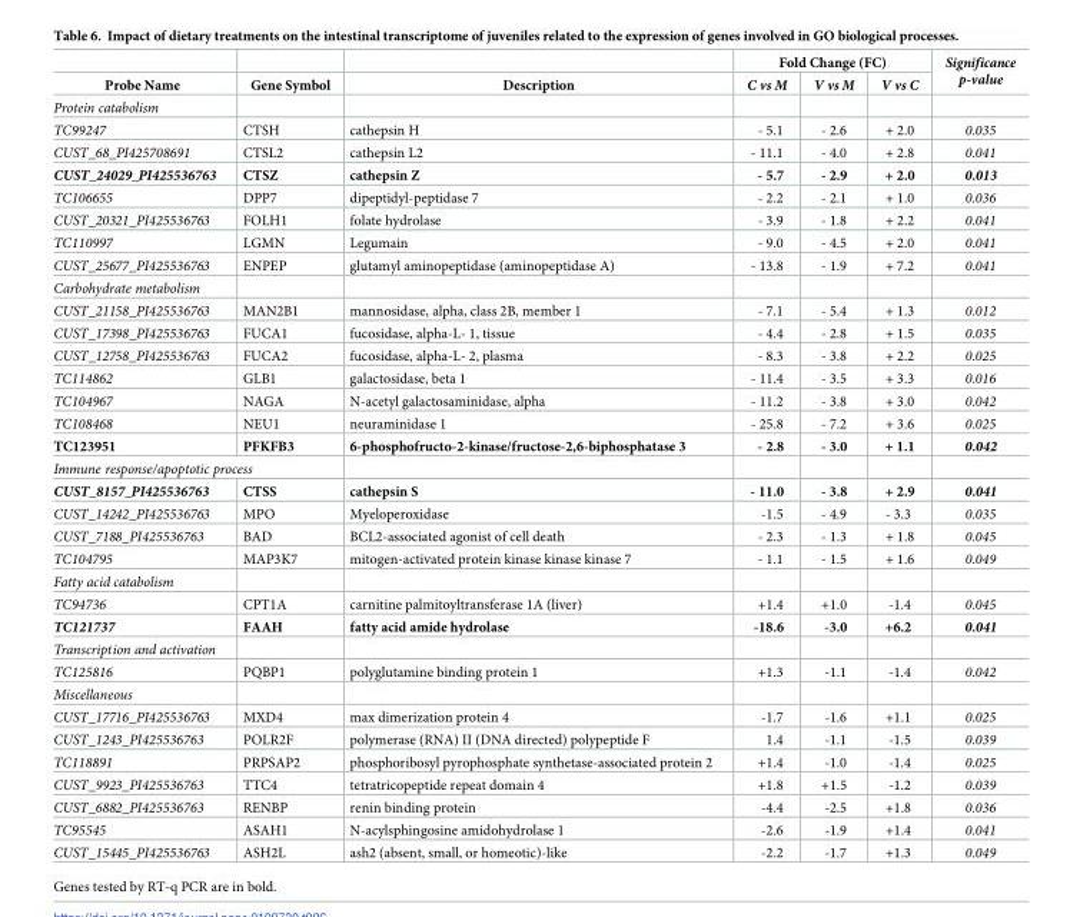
<table><thead><tr><td rowspan="2">Probe Name</td><td rowspan="2">Gene Symbol</td><td rowspan="2">Description</td><td colspan="3">Fold Change (FC)</td><td rowspan="2">Significance p-value</td></tr><tr><td>C vs M</td><td>V vs M</td><td>V vs C</td></tr></thead><tbody><tr><td colspan="7">Protein catabolism</td></tr><tr><td>TC99247</td><td>CTSH</td><td>cathepsin H</td><td>- 5.1</td><td>- 2.6</td><td>+ 2.0</td><td>0.035</td></tr><tr><td>CUST_68_PI425708691</td><td>CTSL2</td><td>cathepsin L2</td><td>- 11.1</td><td>- 4.0</td><td>+ 2.8</td><td>0.041</td></tr><tr><td>CUST_24029_PI425536763</td><td>CTSZ</td><td>cathepsin Z</td><td>- 5.7</td><td>- 2.9</td><td>+ 2.0</td><td>0.013</td></tr><tr><td>TC106655</td><td>DPP7</td><td>dipeptidyl-peptidase 7</td><td>- 2.2</td><td>- 2.1</td><td>+ 1.0</td><td>0.036</td></tr><tr><td>CUST_20321_PI425536763</td><td>FOLH1</td><td>folate hydrolase</td><td>- 3.9</td><td>- 1.8</td><td>+ 2.2</td><td>0.041</td></tr><tr><td>TC110997</td><td>LGMN</td><td>Legumain</td><td>- 9.0</td><td>- 4.5</td><td>+ 2.0</td><td>0.041</td></tr><tr><td>CUST_25677_PI425536763</td><td>ENPEP</td><td>glutamyl aminopeptidase (aminopeptidase A)</td><td>- 13.8</td><td>- 1.9</td><td>+ 7.2</td><td>0.041</td></tr><tr><td colspan="7">Carbohydrate metabolism</td></tr><tr><td>CUST_21158_PI425536763</td><td>MAN2B1</td><td>mannosidase, alpha, class 2B, member 1</td><td>- 7.1</td><td>- 5.4</td><td>+ 1.3</td><td>0.012</td></tr><tr><td>CUST_17398_PI425536763</td><td>FUCA1</td><td>fucosidase, alpha-L- 1, tissue</td><td>- 4.4</td><td>- 2.8</td><td>+ 1.5</td><td>0.035</td></tr><tr><td>CUST_12758_PI425536763</td><td>FUCA2</td><td>fucosidase, alpha-L- 2, plasma</td><td>- 8.3</td><td>- 3.8</td><td>+ 2.2</td><td>0.025</td></tr><tr><td>TC114862</td><td>GLB1</td><td>galactosidase, beta 1</td><td>- 11.4</td><td>- 3.5</td><td>+ 3.3</td><td>0.016</td></tr><tr><td>TC104967</td><td>NAGA</td><td>N-acetyl galactosaminidase, alpha</td><td>- 11.2</td><td>- 3.8</td><td>+ 3.0</td><td>0.042</td></tr><tr><td>TC108468</td><td>NEU1</td><td>neuraminidase 1</td><td>- 25.8</td><td>- 7.2</td><td>+ 3.6</td><td>0.025</td></tr><tr><td>TC123951</td><td>PFKFB3</td><td>6-phosphofructo-2-kinase/fructose-2,6-biphosphatase 3</td><td>- 2.8</td><td>- 3.0</td><td>+ 1.1</td><td>0.042</td></tr><tr><td colspan="7">Immune response/apoptotic process</td></tr><tr><td>CUST_8157_PI425536763</td><td>CTSS</td><td>cathepsin S</td><td>- 11.0</td><td>- 3.8</td><td>+ 2.9</td><td>0.041</td></tr><tr><td>CUST_14242_PI425536763</td><td>MPO</td><td>Myeloperoxidase</td><td>-1.5</td><td>- 4.9</td><td>- 3.3</td><td>0.035</td></tr><tr><td>CUST_7188_PI425536763</td><td>BAD</td><td>BCL2-associated agonist of cell death</td><td>- 2.3</td><td>- 1.3</td><td>+ 1.8</td><td>0.045</td></tr><tr><td>TC104795</td><td>MAP3K7</td><td>mitogen-activated protein kinase kinase kinase 7</td><td>- 1.1</td><td>- 1.5</td><td>+ 1.6</td><td>0.049</td></tr><tr><td colspan="7">Fatty acid catabolism</td></tr><tr><td>TC94736</td><td>CPT1A</td><td>carnitine palmitoyltransferase 1A (liver)</td><td>+1.4</td><td>+1.0</td><td>-1.4</td><td>0.045</td></tr><tr><td>TC121737</td><td>FAAH</td><td>fatty acid amide hydrolase</td><td>-18.6</td><td>-3.0</td><td>+6.2</td><td>0.041</td></tr><tr><td colspan="7">Transcription and activation</td></tr><tr><td>TC125816</td><td>PQBP1</td><td>polyglutamine binding protein 1</td><td>+1.3</td><td>-1.1</td><td>-1.4</td><td>0.042</td></tr><tr><td colspan="7">Miscellaneous</td></tr><tr><td>CUST_17716_PI425536763</td><td>MXD4</td><td>max dimerization protein 4</td><td>-1.7</td><td>-1.6</td><td>+1.1</td><td>0.025</td></tr><tr><td>CUST_1243_PI425536763</td><td>POLR2F</td><td>polymerase (RNA) II (DNA directed) polypeptide F</td><td>1.4</td><td>-1.1</td><td>-1.5</td><td>0.039</td></tr><tr><td>TC118891</td><td>PRPSAP2</td><td>phosphoribosyl pyrophosphate synthetase-associated protein 2</td><td>+1.4</td><td>-1.0</td><td>-1.4</td><td>0.025</td></tr><tr><td>CUST_9923_PI425536763</td><td>TTC4</td><td>tetratricopeptide repeat domain 4</td><td>+1.8</td><td>+1.5</td><td>-1.2</td><td>0.039</td></tr><tr><td>CUST_6882_PI425536763</td><td>RENBP</td><td>renin binding protein</td><td>-4.4</td><td>-2.5</td><td>+1.8</td><td>0.036</td></tr><tr><td>TC95545</td><td>ASAH1</td><td>N-acylsphingosine amidohydrolase 1</td><td>-2.6</td><td>-1.9</td><td>+1.4</td><td>0.041</td></tr><tr><td>CUST_15445_PI425536763</td><td>ASH2L</td><td>ash2 (absent, small, or homeotic)-like</td><td>-2.2</td><td>-1.7</td><td>+1.3</td><td>0.049</td></tr></tbody></table>